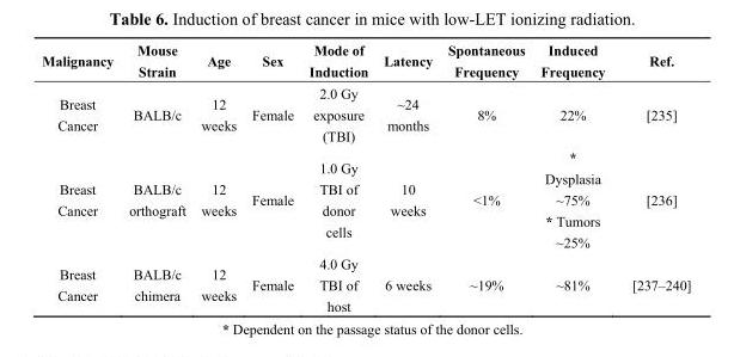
<table><thead><tr><td>Malignancy</td><td>Mouse Strain</td><td>Age</td><td>Sex</td><td>Mode of Induction</td><td>Latency</td><td>Spontaneous Frequency</td><td>Induced Frequency</td><td>Ref.</td></tr></thead><tbody><tr><td>Breast Cancer</td><td>BALB/c</td><td>12 weeks</td><td>Female</td><td>2.0 Gy exposure (TBI)</td><td>~24 months</td><td>8%</td><td>22%</td><td>[235]</td></tr><tr><td>Breast Cancer</td><td>BALB/c orthograft</td><td>12 weeks</td><td>Female</td><td>1.0 Gy TBI of donor cells</td><td>10 weeks</td><td>&lt;1%</td><td>* Dysplasia ~75% * Tumors ~25%</td><td>[236]</td></tr><tr><td>Breast Cancer</td><td>BALB/c chimera</td><td>12 weeks</td><td>Female</td><td>4.0 Gy TBI of host</td><td>6 weeks</td><td>~19%</td><td>~81%</td><td>[237–240]</td></tr></tbody></table>